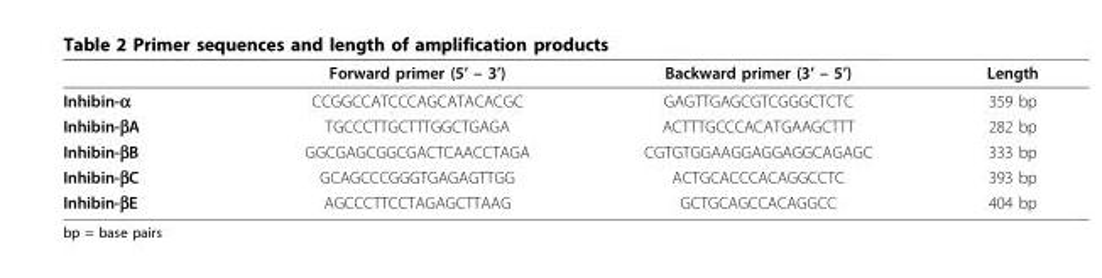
<table><thead><tr><td></td><td>Forward primer (5’ – 3’)</td><td>Backward primer (3’ – 5’)</td><td>Length</td></tr></thead><tbody><tr><td>Inhibin-α</td><td>CCGGCCATCCCAGCATACACGC</td><td>GAGTTGAGCGTCGGGCTCTC</td><td>359 bp</td></tr><tr><td>Inhibin-βA</td><td>TGCCCTTGCTTTGGCTGAGA</td><td>ACTTTGCCCACATGAAGCTTT</td><td>282 bp</td></tr><tr><td>Inhibin-βB</td><td>GGCGAGCGGCGACTCAACCTAGA</td><td>CGTGTGGAAGGAGGAGGCAGAGC</td><td>333 bp</td></tr><tr><td>Inhibin-βC</td><td>GCAGCCCGGGTGAGAGTTGG</td><td>ACTGCACCCACAGGCCTC</td><td>393 bp</td></tr><tr><td>Inhibin-βE</td><td>AGCCCTTCCTAGAGCTTAAG</td><td>GCTGCAGCCACAGGCC</td><td>404 bp</td></tr></tbody></table>